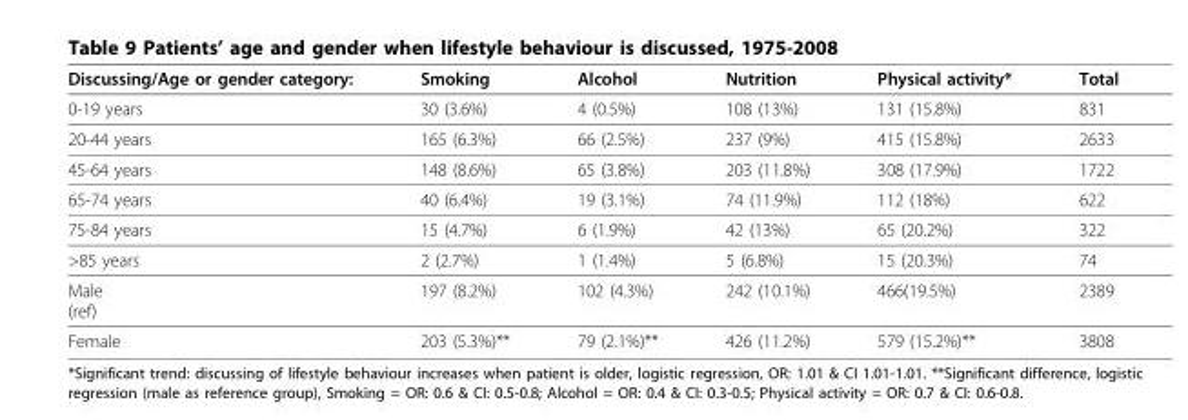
<table><thead><tr><td>Discussing/Age or gender category:</td><td>Smoking</td><td>Alcohol</td><td>Nutrition</td><td>Physical activity*</td><td>Total</td></tr></thead><tbody><tr><td>0-19 years</td><td>30 (3.6%)</td><td>4 (0.5%)</td><td>108 (13%)</td><td>131 (15.8%)</td><td>831</td></tr><tr><td>20-44 years</td><td>165 (6.3%)</td><td>66 (2.5%)</td><td>237 (9%)</td><td>415 (15.8%)</td><td>2633</td></tr><tr><td>45-64 years</td><td>148 (8.6%)</td><td>65 (3.8%)</td><td>203 (11.8%)</td><td>308 (17.9%)</td><td>1722</td></tr><tr><td>65-74 years</td><td>40 (6.4%)</td><td>19 (3.1%)</td><td>74 (11.9%)</td><td>112 (18%)</td><td>622</td></tr><tr><td>75-84 years</td><td>15 (4.7%)</td><td>6 (1.9%)</td><td>42 (13%)</td><td>65 (20.2%)</td><td>322</td></tr><tr><td>&gt;85 years</td><td>2 (2.7%)</td><td>1 (1.4%)</td><td>5 (6.8%)</td><td>15 (20.3%)</td><td>74</td></tr><tr><td>Male (ref)</td><td>197 (8.2%)</td><td>102 (4.3%)</td><td>242 (10.1%)</td><td>466(19.5%)</td><td>2389</td></tr><tr><td>Female</td><td>203 (5.3%)**</td><td>79 (2.1%)**</td><td>426 (11.2%)</td><td>579 (15.2%)**</td><td>3808</td></tr></tbody></table>